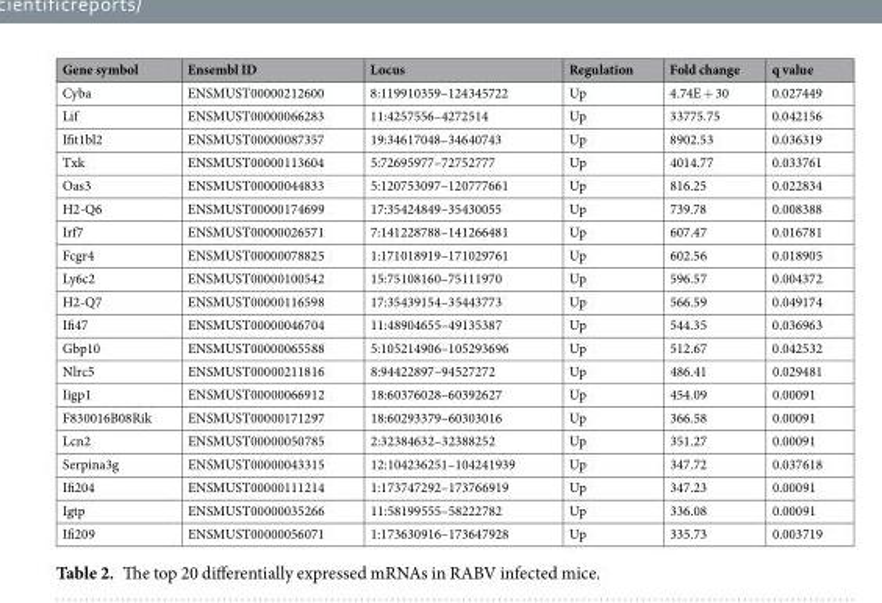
<table><thead><tr><td>Gene symbol</td><td>Ensembl ID</td><td>Locus</td><td>Regulation</td><td>Fold change</td><td>q value</td></tr></thead><tbody><tr><td>Cyba</td><td>ENSMUST00000212600</td><td>8:119910359–124345722</td><td>Up</td><td>4.74E + 30</td><td>0.027449</td></tr><tr><td>Lif</td><td>ENSMUST00000066283</td><td>11:4257556–4272514</td><td>Up</td><td>33775.75</td><td>0.042156</td></tr><tr><td>Ifit1bl2</td><td>ENSMUST00000087357</td><td>19:34617048–34640743</td><td>Up</td><td>8902.53</td><td>0.036319</td></tr><tr><td>Txk</td><td>ENSMUST00000113604</td><td>5:72695977–72752777</td><td>Up</td><td>4014.77</td><td>0.033761</td></tr><tr><td>Oas3</td><td>ENSMUST00000044833</td><td>5:120753097–120777661</td><td>Up</td><td>816.25</td><td>0.022834</td></tr><tr><td>H2-Q6</td><td>ENSMUST00000174699</td><td>17:35424849–35430055</td><td>Up</td><td>739.78</td><td>0.008388</td></tr><tr><td>Irf7</td><td>ENSMUST00000026571</td><td>7:141228788–141266481</td><td>Up</td><td>607.47</td><td>0.016781</td></tr><tr><td>Fcgr4</td><td>ENSMUST00000078825</td><td>1:171018919–171029761</td><td>Up</td><td>602.56</td><td>0.018905</td></tr><tr><td>Ly6c2</td><td>ENSMUST00000100542</td><td>15:75108160–75111970</td><td>Up</td><td>596.57</td><td>0.004372</td></tr><tr><td>H2-Q7</td><td>ENSMUST00000116598</td><td>17:35439154–35443773</td><td>Up</td><td>566.59</td><td>0.049174</td></tr><tr><td>Ifi47</td><td>ENSMUST00000046704</td><td>11:48904655–49135387</td><td>Up</td><td>544.35</td><td>0.036963</td></tr><tr><td>Gbp10</td><td>ENSMUST00000065588</td><td>5:105214906–105293696</td><td>Up</td><td>512.67</td><td>0.042532</td></tr><tr><td>Nlrc5</td><td>ENSMUST00000211816</td><td>8:94422897–94527272</td><td>Up</td><td>486.41</td><td>0.029481</td></tr><tr><td>Iigp1</td><td>ENSMUST00000066912</td><td>18:60376028–60392627</td><td>Up</td><td>454.09</td><td>0.00091</td></tr><tr><td>F830016B08Rik</td><td>ENSMUST00000171297</td><td>18:60293379–60303016</td><td>Up</td><td>366.58</td><td>0.00091</td></tr><tr><td>Lcn2</td><td>ENSMUST00000050785</td><td>2:32384632–32388252</td><td>Up</td><td>351.27</td><td>0.00091</td></tr><tr><td>Serpina3g</td><td>ENSMUST00000043315</td><td>12:104236251–104241939</td><td>Up</td><td>347.72</td><td>0.037618</td></tr><tr><td>Ifi204</td><td>ENSMUST00000111214</td><td>1:173747292–173766919</td><td>Up</td><td>347.23</td><td>0.00091</td></tr><tr><td>Igtp</td><td>ENSMUST00000035266</td><td>11:58199555–58222782</td><td>Up</td><td>336.08</td><td>0.00091</td></tr><tr><td>Ifi209</td><td>ENSMUST00000056071</td><td>1:173630916–173647928</td><td>Up</td><td>335.73</td><td>0.003719</td></tr></tbody></table>